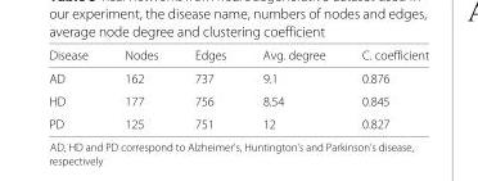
<table><thead><tr><td>Disease</td><td>Nodes</td><td>Edges</td><td>Avg. degree</td><td>C. coefficient</td></tr></thead><tbody><tr><td>AD</td><td>162</td><td>737</td><td>9.1</td><td>0.876</td></tr><tr><td>HD</td><td>177</td><td>756</td><td>8.54</td><td>0.845</td></tr><tr><td>PD</td><td>125</td><td>751</td><td>12</td><td>0.827</td></tr></tbody></table>